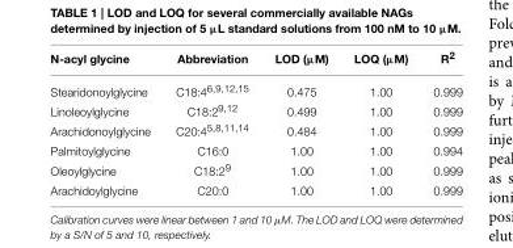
<table><thead><tr><td>N-acyl glycine</td><td>Abbreviation</td><td>LOD (µM)</td><td>LOQ (µM)</td><td>R<sup>2</sup></td></tr></thead><tbody><tr><td>Stearidonoylglycine</td><td>C18:4<sup>6,9,12,15</sup></td><td>0.475</td><td>1.00</td><td>0.999</td></tr><tr><td>Linoleoylglycine</td><td>C18:2<sup>9,12</sup></td><td>0.499</td><td>1.00</td><td>0.999</td></tr><tr><td>Arachidonoylglycine</td><td>C20:4<sup>5,8,11,14</sup></td><td>0.484</td><td>1.00</td><td>0.999</td></tr><tr><td>Palmitoylglycine</td><td>C16:0</td><td>1.00</td><td>1.00</td><td>0.994</td></tr><tr><td>Oleoylglycine</td><td>C18:2<sup>9</sup></td><td>1.00</td><td>1.00</td><td>0.999</td></tr><tr><td>Arachidoylglycine</td><td>C20:0</td><td>1.00</td><td>1.00</td><td>0.999</td></tr></tbody></table>